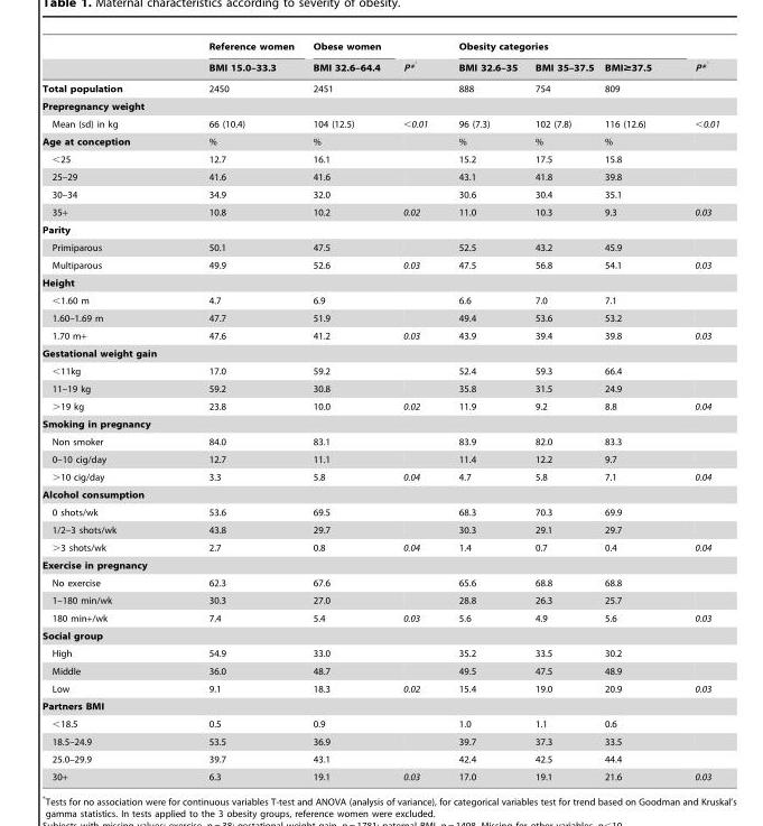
<table><thead><tr><td rowspan="2"></td><td rowspan="2">Reference women BMI 15.0–33.3</td><td rowspan="2">Obese women BMI 32.6–64.4</td><td rowspan="2">P*<sup>′</sup></td><td colspan="3">Obesity categories</td><td rowspan="2">P*<sup>′</sup></td></tr><tr><td>BMI 32.6–35</td><td>BMI 35–37.5</td><td>BMI≥37.5</td></tr></thead><tbody><tr><td>Total population</td><td>2450</td><td>2451</td><td></td><td>888</td><td>754</td><td>809</td><td></td></tr><tr><td colspan="8">Prepregnancy weight</td></tr><tr><td>Mean (sd) in kg</td><td>66 (10.4)</td><td>104 (12.5)</td><td>&lt;0.01</td><td>96 (7.3)</td><td>102 (7.8)</td><td>116 (12.6)</td><td>&lt;0.01</td></tr><tr><td>Age at conception</td><td>%</td><td>%</td><td></td><td>%</td><td>%</td><td>%</td><td></td></tr><tr><td>&lt;25</td><td>12.7</td><td>16.1</td><td></td><td>15.2</td><td>17.5</td><td>15.8</td><td></td></tr><tr><td>25–29</td><td>41.6</td><td>41.6</td><td></td><td>43.1</td><td>41.8</td><td>39.8</td><td></td></tr><tr><td>30–34</td><td>34.9</td><td>32.0</td><td></td><td>30.6</td><td>30.4</td><td>35.1</td><td></td></tr><tr><td>35+</td><td>10.8</td><td>10.2</td><td>0.02</td><td>11.0</td><td>10.3</td><td>9.3</td><td>0.03</td></tr><tr><td colspan="8">Parity</td></tr><tr><td>Primiparous</td><td>50.1</td><td>47.5</td><td></td><td>52.5</td><td>43.2</td><td>45.9</td><td></td></tr><tr><td>Multiparous</td><td>49.9</td><td>52.6</td><td>0.03</td><td>47.5</td><td>56.8</td><td>54.1</td><td>0.03</td></tr><tr><td colspan="8">Height</td></tr><tr><td>&lt;1.60 m</td><td>4.7</td><td>6.9</td><td></td><td>6.6</td><td>7.0</td><td>7.1</td><td></td></tr><tr><td>1.60–1.69 m</td><td>47.7</td><td>51.9</td><td></td><td>49.4</td><td>53.6</td><td>53.2</td><td></td></tr><tr><td>1.70 m+</td><td>47.6</td><td>41.2</td><td>0.03</td><td>43.9</td><td>39.4</td><td>39.8</td><td>0.03</td></tr><tr><td colspan="8">Gestational weight gain</td></tr><tr><td>&lt;11kg</td><td>17.0</td><td>59.2</td><td></td><td>52.4</td><td>59.3</td><td>66.4</td><td></td></tr><tr><td>11–19 kg</td><td>59.2</td><td>30.8</td><td></td><td>35.8</td><td>31.5</td><td>24.9</td><td></td></tr><tr><td>&gt;19 kg</td><td>23.8</td><td>10.0</td><td>0.02</td><td>11.9</td><td>9.2</td><td>8.8</td><td>0.04</td></tr><tr><td colspan="8">Smoking in pregnancy</td></tr><tr><td>Non smoker</td><td>84.0</td><td>83.1</td><td></td><td>83.9</td><td>82.0</td><td>83.3</td><td></td></tr><tr><td>0–10 cig/day</td><td>12.7</td><td>11.1</td><td></td><td>11.4</td><td>12.2</td><td>9.7</td><td></td></tr><tr><td>&gt;10 cig/day</td><td>3.3</td><td>5.8</td><td>0.04</td><td>4.7</td><td>5.8</td><td>7.1</td><td>0.04</td></tr><tr><td colspan="8">Alcohol consumption</td></tr><tr><td>0 shots/wk</td><td>53.6</td><td>69.5</td><td></td><td>68.3</td><td>70.3</td><td>69.9</td><td></td></tr><tr><td>1/2–3 shots/wk</td><td>43.8</td><td>29.7</td><td></td><td>30.3</td><td>29.1</td><td>29.7</td><td></td></tr><tr><td>&gt;3 shots/wk</td><td>2.7</td><td>0.8</td><td>0.04</td><td>1.4</td><td>0.7</td><td>0.4</td><td>0.04</td></tr><tr><td colspan="8">Exercise in pregnancy</td></tr><tr><td>No exercise</td><td>62.3</td><td>67.6</td><td></td><td>65.6</td><td>68.8</td><td>68.8</td><td></td></tr><tr><td>1–180 min/wk</td><td>30.3</td><td>27.0</td><td></td><td>28.8</td><td>26.3</td><td>25.7</td><td></td></tr><tr><td>180 min+/wk</td><td>7.4</td><td>5.4</td><td>0.03</td><td>5.6</td><td>4.9</td><td>5.6</td><td>0.03</td></tr><tr><td colspan="8">Social group</td></tr><tr><td>High</td><td>54.9</td><td>33.0</td><td></td><td>35.2</td><td>33.5</td><td>30.2</td><td></td></tr><tr><td>Middle</td><td>36.0</td><td>48.7</td><td></td><td>49.5</td><td>47.5</td><td>48.9</td><td></td></tr><tr><td>Low</td><td>9.1</td><td>18.3</td><td>0.02</td><td>15.4</td><td>19.0</td><td>20.9</td><td>0.03</td></tr><tr><td colspan="8">Partners BMI</td></tr><tr><td>&lt;18.5</td><td>0.5</td><td>0.9</td><td></td><td>1.0</td><td>1.1</td><td>0.6</td><td></td></tr><tr><td>18.5–24.9</td><td>53.5</td><td>36.9</td><td></td><td>39.7</td><td>37.3</td><td>33.5</td><td></td></tr><tr><td>25.0–29.9</td><td>39.7</td><td>43.1</td><td></td><td>42.4</td><td>42.5</td><td>44.4</td><td></td></tr><tr><td>30+</td><td>6.3</td><td>19.1</td><td>0.03</td><td>17.0</td><td>19.1</td><td>21.6</td><td>0.03</td></tr></tbody></table>